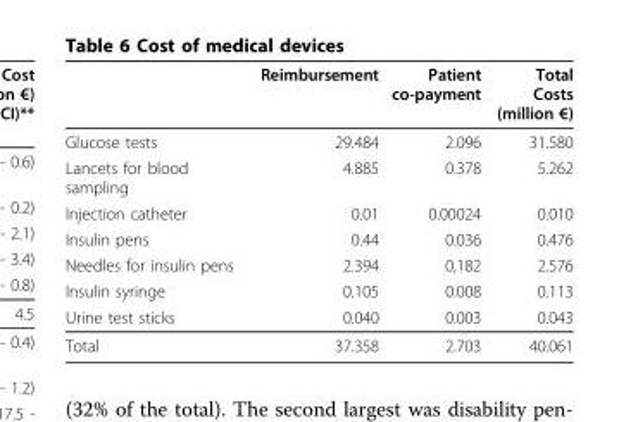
<table><thead><tr><td></td><td>Reimbursement</td><td>Patient co-payment</td><td>Total Costs (million €)</td></tr></thead><tbody><tr><td>Glucose tests</td><td>29.484</td><td>2.096</td><td>31.580</td></tr><tr><td>Lancets for blood sampling</td><td>4.885</td><td>0.378</td><td>5.262</td></tr><tr><td>Injection catheter</td><td>0.01</td><td>0.00024</td><td>0.010</td></tr><tr><td>Insulin pens</td><td>0.44</td><td>0.036</td><td>0.476</td></tr><tr><td>Needles for insulin pens</td><td>2.394</td><td>0,182</td><td>2.576</td></tr><tr><td>Insulin syringe</td><td>0.105</td><td>0.008</td><td>0.113</td></tr><tr><td>Urine test sticks</td><td>0.040</td><td>0.003</td><td>0.043</td></tr><tr><td>Total</td><td>37.358</td><td>2.703</td><td>40.061</td></tr></tbody></table>